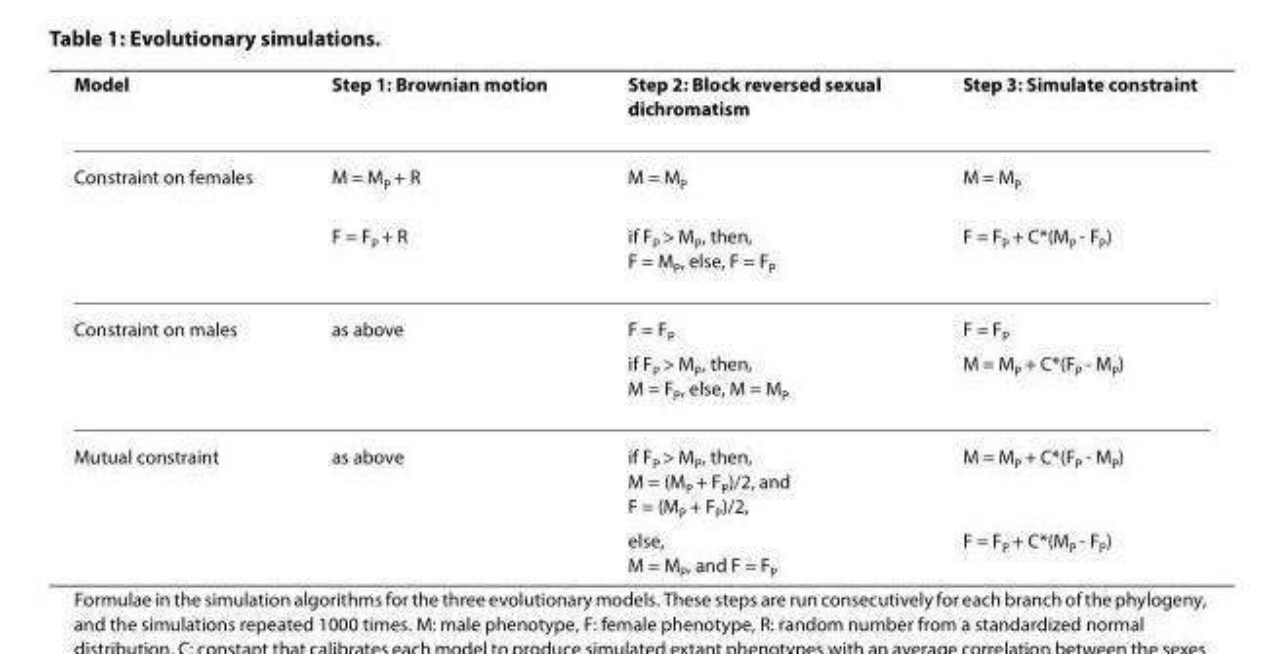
<table><thead><tr><td>Model</td><td>Step 1: Brownian motion</td><td>Step 2: Block reversed sexual dichromatism</td><td>Step 3: Simulate constraint</td></tr></thead><tbody><tr><td rowspan="2">Constraint on females</td><td>M = M<sub>P</sub> + R</td><td>M = M<sub>P</sub></td><td>M = M<sub>P</sub></td></tr><tr><td>F = F<sub>P</sub> + R</td><td>if F<sub>P</sub> &gt; M<sub>P</sub>, then, F = M<sub>P</sub>, else, F = F<sub>P</sub></td><td>F = F<sub>P</sub> + C*(M<sub>P</sub> - F<sub>P</sub>)</td></tr><tr><td rowspan="2">Constraint on males</td><td>as above</td><td>F = F<sub>P</sub></td><td>F = F<sub>P</sub></td></tr><tr><td></td><td>if F<sub>P</sub> &gt; M<sub>P</sub>, then, M = F<sub>P</sub>, else, M = M<sub>P</sub></td><td>M = M<sub>P</sub> + C*(F<sub>P</sub> - M<sub>P</sub>)</td></tr><tr><td rowspan="2">Mutual constraint</td><td>as above</td><td>if F<sub>P</sub> &gt; M<sub>P</sub>, then, M = (M<sub>P</sub> + F<sub>P</sub>)/2, and F = (M<sub>P</sub> + F<sub>P</sub>)/2,</td><td>M = M<sub>P</sub> + C*(F<sub>P</sub> - M<sub>P</sub>)</td></tr><tr><td></td><td>else, M = M<sub>P</sub>, and F = F<sub>P</sub></td><td>F = F<sub>P</sub> + C*(M<sub>P</sub> - F<sub>P</sub>)</td></tr></tbody></table>